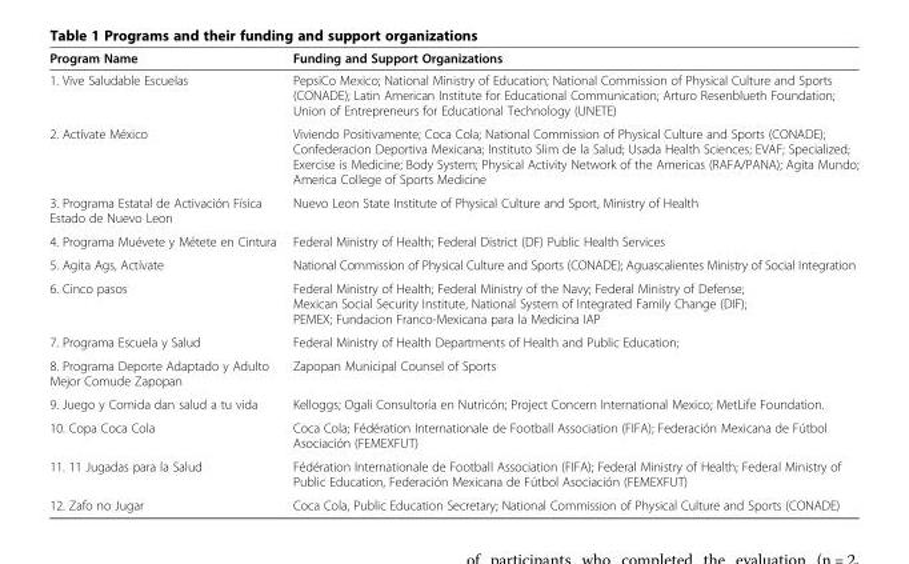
<table><thead><tr><td>Program Name</td><td>Funding and Support Organizations</td></tr></thead><tbody><tr><td>1. Vive Saludable Escuelas</td><td>PepsiCo Mexico; National Ministry of Education; National Commission of Physical Culture and Sports (CONADE); Latin American Institute for Educational Communication; Arturo Resenblueth Foundation; Union of Entrepreneurs for Educational Technology (UNETE)</td></tr><tr><td>2. Actívate México</td><td>Viviendo Positivamente; Coca Cola; National Commission of Physical Culture and Sports (CONADE); Confederacion Deportiva Mexicana; Instituto Slim de la Salud; Usada Health Sciences; EVAF; Specialized; Exercise is Medicine; Body System; Physical Activity Network of the Americas (RAFA/PANA); Agita Mundo; America College of Sports Medicine</td></tr><tr><td>3. Programa Estatal de Activación Física Estado de Nuevo Leon</td><td>Nuevo Leon State Institute of Physical Culture and Sport, Ministry of Health</td></tr><tr><td>4. Programa Muévete y Métete en Cintura</td><td>Federal Ministry of Health; Federal District (DF) Public Health Services</td></tr><tr><td>5. Agita Ags, Actívate</td><td>National Commission of Physical Culture and Sports (CONADE); Aguascalientes Ministry of Social Integration</td></tr><tr><td>6. Cinco pasos</td><td>Federal Ministry of Health; Federal Ministry of the Navy; Federal Ministry of Defense; Mexican Social Security Institute, National System of Integrated Family Change (DIF); PEMEX; Fundacion Franco-Mexicana para la Medicina IAP</td></tr><tr><td>7. Programa Escuela y Salud</td><td>Federal Ministry of Health Departments of Health and Public Education;</td></tr><tr><td>8. Programa Deporte Adaptado y Adulto Mejor Comude Zapopan</td><td>Zapopan Municipal Counsel of Sports</td></tr><tr><td>9. Juego y Comida dan salud a tu vida</td><td>Kelloggs; Ogali Consultoría en Nutricón; Project Concern International Mexico; MetLife Foundation.</td></tr><tr><td>10. Copa Coca Cola</td><td>Coca Cola; Fédération Internationale de Football Association (FIFA); Federación Mexicana de Fútbol Asociación (FEMEXFUT)</td></tr><tr><td>11. 11 Jugadas para la Salud</td><td>Fédération Internationale de Football Association (FIFA); Federal Ministry of Health; Federal Ministry of Public Education, Federación Mexicana de Fútbol Asociación (FEMEXFUT)</td></tr><tr><td>12. Zafo no Jugar</td><td>Coca Cola, Public Education Secretary; National Commission of Physical Culture and Sports (CONADE)</td></tr></tbody></table>